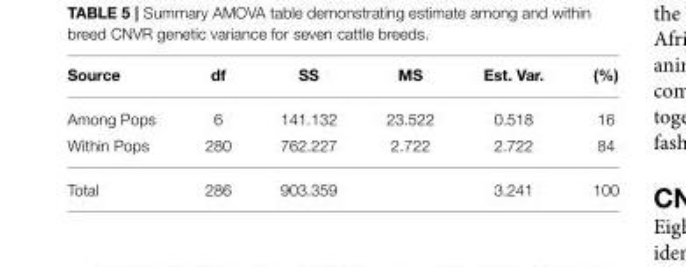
<table><thead><tr><td>Source</td><td>df</td><td>SS</td><td>MS</td><td>Est. Var.</td><td>(%)</td></tr></thead><tbody><tr><td>Among Pops</td><td>6</td><td>141.132</td><td>23.522</td><td>0.518</td><td>16</td></tr><tr><td>Within Pops</td><td>280</td><td>762.227</td><td>2.722</td><td>2.722</td><td>84</td></tr><tr><td>Total</td><td>286</td><td>903.359</td><td></td><td>3.241</td><td>100</td></tr></tbody></table>